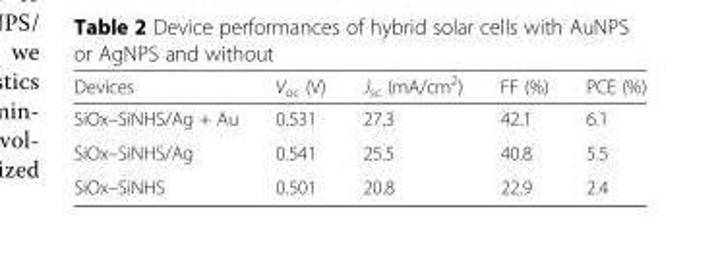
<table><thead><tr><td>Devices</td><td>V<sub>oc</sub> (V)</td><td>J<sub>sc</sub> (mA/cm<sup>2</sup>)</td><td>FF (%)</td><td>PCE (%)</td></tr></thead><tbody><tr><td>SiOx–SiNHS/Ag + Au</td><td>0.531</td><td>27.3</td><td>42.1</td><td>6.1</td></tr><tr><td>SiOx–SiNHS/Ag</td><td>0.541</td><td>25.5</td><td>40.8</td><td>5.5</td></tr><tr><td>SiOx–SiNHS</td><td>0.501</td><td>20.8</td><td>22.9</td><td>2.4</td></tr></tbody></table>